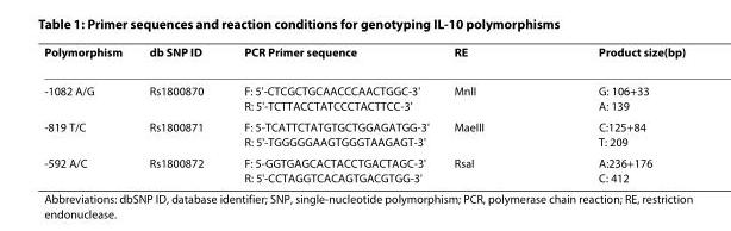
<table><thead><tr><td>Polymorphism</td><td>db SNP ID</td><td>PCR Primer sequence</td><td>RE</td><td>Product size(bp)</td></tr></thead><tbody><tr><td>-1082 A/G</td><td>Rs1800870</td><td>F: 5&#x27;-CTCGCTGCAACCCAACTGGC-3&#x27; R: 5&#x27;-TCTTACCTATCCCTACTTCC-3&#x27;</td><td>MnlI</td><td>G: 106+33 A: 139</td></tr><tr><td>-819 T/C</td><td>Rs1800871</td><td>F: 5-TCATTCTATGTGCTGGAGATGG-3&#x27; R: 5&#x27;-TGGGGGAAGTGGGTAAGAGT-3&#x27;</td><td>MaeIII</td><td>C:125+84 T: 209</td></tr><tr><td>-592 A/C</td><td>Rs1800872</td><td>F: 5-GGTGAGCACTACCTGACTAGC-3&#x27; R: 5&#x27;-CCTAGGTCACAGTGACGTGG-3&#x27;</td><td>RsaI</td><td>A:236+176 C: 412</td></tr></tbody></table>